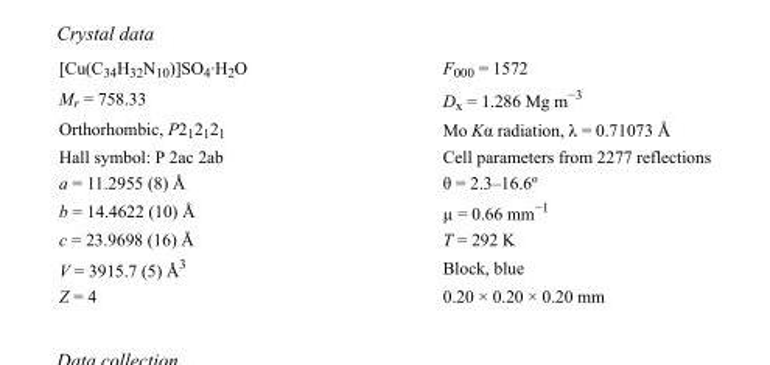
<table><tbody><tr><td>[Cu(C<sub>34</sub>H<sub>32</sub>N<sub>10</sub>)]SO<sub>4</sub>·H<sub>2</sub>O</td><td>F000 = 1572</td></tr><tr><td>M<sub>r</sub> = 758.33</td><td>D<sub>x</sub> = 1.286 Mg m<sup>−3</sup></td></tr><tr><td>Orthorhombic, P2<sub>1</sub>2<sub>1</sub>2<sub>1</sub></td><td>Mo Kα radiation, λ = 0.71073 Å</td></tr><tr><td>Hall symbol: P 2ac 2ab</td><td>Cell parameters from 2277 reflections</td></tr><tr><td>a = 11.2955 (8) Å</td><td>θ = 2.3–16.6º</td></tr><tr><td>b = 14.4622 (10) Å</td><td>µ = 0.66 mm<sup>−1</sup></td></tr><tr><td>c = 23.9698 (16) Å</td><td>T = 292 K</td></tr><tr><td>V = 3915.7 (5) Å<sup>3</sup></td><td>Block, blue</td></tr><tr><td>Z = 4</td><td>0.20 × 0.20 × 0.20 mm</td></tr></tbody></table>